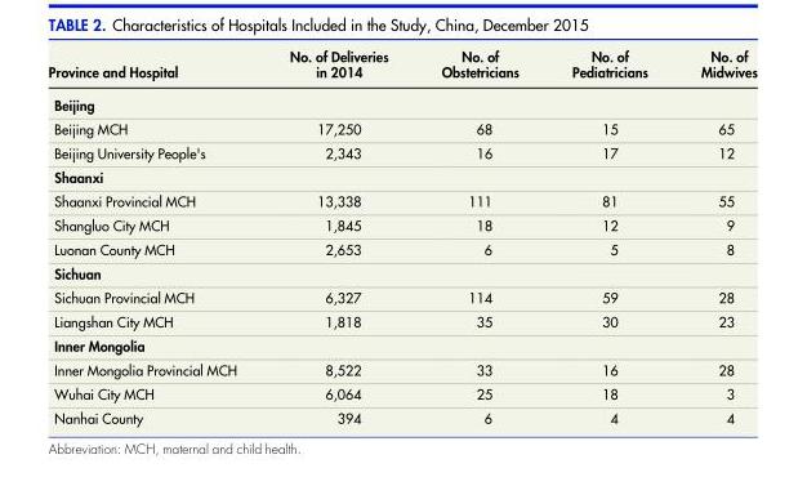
<table><thead><tr><td>Province and Hospital</td><td>No. of Deliveries in 2014</td><td>No. of Obstetricians</td><td>No. of Pediatricians</td><td>No. of Midwives</td></tr></thead><tbody><tr><td colspan="5">Beijing</td></tr><tr><td>Beijing MCH</td><td>17,250</td><td>68</td><td>15</td><td>65</td></tr><tr><td>Beijing University People&#x27;s</td><td>2,343</td><td>16</td><td>17</td><td>12</td></tr><tr><td colspan="5">Shaanxi</td></tr><tr><td>Shaanxi Provincial MCH</td><td>13,338</td><td>111</td><td>81</td><td>55</td></tr><tr><td>Shangluo City MCH</td><td>1,845</td><td>18</td><td>12</td><td>9</td></tr><tr><td>Luonan County MCH</td><td>2,653</td><td>6</td><td>5</td><td>8</td></tr><tr><td colspan="5">Sichuan</td></tr><tr><td>Sichuan Provincial MCH</td><td>6,327</td><td>114</td><td>59</td><td>28</td></tr><tr><td>Liangshan City MCH</td><td>1,818</td><td>35</td><td>30</td><td>23</td></tr><tr><td colspan="5">Inner Mongolia</td></tr><tr><td>Inner Mongolia Provincial MCH</td><td>8,522</td><td>33</td><td>16</td><td>28</td></tr><tr><td>Wuhai City MCH</td><td>6,064</td><td>25</td><td>18</td><td>3</td></tr><tr><td>Nanhai County</td><td>394</td><td>6</td><td>4</td><td>4</td></tr></tbody></table>